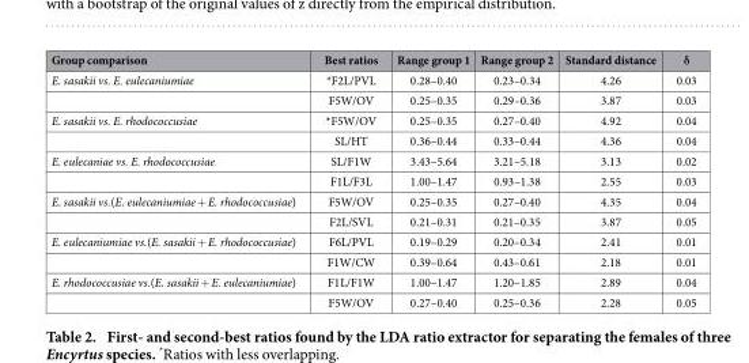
<table><thead><tr><td>Group comparison</td><td>Best ratios</td><td>Range group 1</td><td>Range group 2</td><td>Standard distance</td><td>δ</td></tr></thead><tbody><tr><td rowspan="2">E. sasakii vs. E. eulecaniumiae</td><td>*F2L/PVL</td><td>0.28–0.40</td><td>0.23–0.34</td><td>4.26</td><td>0.03</td></tr><tr><td>F5W/OV</td><td>0.25–0.35</td><td>0.29–0.36</td><td>3.87</td><td>0.03</td></tr><tr><td rowspan="2">E. sasakii vs. E. rhodococcusiae</td><td>*F5W/OV</td><td>0.25–0.35</td><td>0.27–0.40</td><td>4.92</td><td>0.04</td></tr><tr><td>SL/HT</td><td>0.36–0.44</td><td>0.33–0.44</td><td>4.36</td><td>0.04</td></tr><tr><td rowspan="2">E. eulecaniae vs. E. rhodococcusiae</td><td>SL/F1W</td><td>3.43–5.64</td><td>3.21–5.18</td><td>3.13</td><td>0.02</td></tr><tr><td>F1L/F3L</td><td>1.00–1.47</td><td>0.93–1.38</td><td>2.55</td><td>0.03</td></tr><tr><td rowspan="2">E. sasakii vs.(E. eulecaniumiae + E. rhodococcusiae)</td><td>F5W/OV</td><td>0.25–0.35</td><td>0.27–0.40</td><td>4.35</td><td>0.04</td></tr><tr><td>F2L/SVL</td><td>0.21–0.31</td><td>0.21–0.35</td><td>3.87</td><td>0.05</td></tr><tr><td rowspan="2">E. eulecaniumiae vs.(E. sasakii + E. rhodococcusiae)</td><td>F6L/PVL</td><td>0.19–0.29</td><td>0.20–0.34</td><td>2.41</td><td>0.01</td></tr><tr><td>F1W/CW</td><td>0.39–0.64</td><td>0.43–0.61</td><td>2.18</td><td>0.01</td></tr><tr><td rowspan="2">E. rhodococcusiae vs.(E. sasakii + E. eulecaniumiae)</td><td>F1L/F1W</td><td>1.00–1.47</td><td>1.20–1.85</td><td>2.89</td><td>0.04</td></tr><tr><td>F5W/OV</td><td>0.27–0.40</td><td>0.25–0.36</td><td>2.28</td><td>0.05</td></tr></tbody></table>